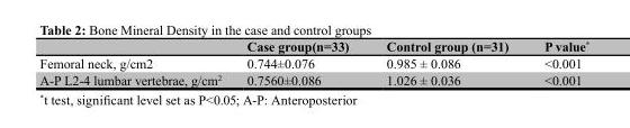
<table><thead><tr><td></td><td>Case group(n=33)</td><td>Control group (n=31)</td><td>P value*</td></tr></thead><tbody><tr><td>Femoral neck, g/cm<sup>2</sup></td><td>0.744±0.076</td><td>0.985 ± 0.086</td><td>&lt;0.001</td></tr><tr><td>A-P L2-4 lumbar vertebrae, g/cm<sup>2</sup></td><td>0.7560±0.086</td><td>1.026 ± 0.036</td><td>&lt;0.001</td></tr></tbody></table>